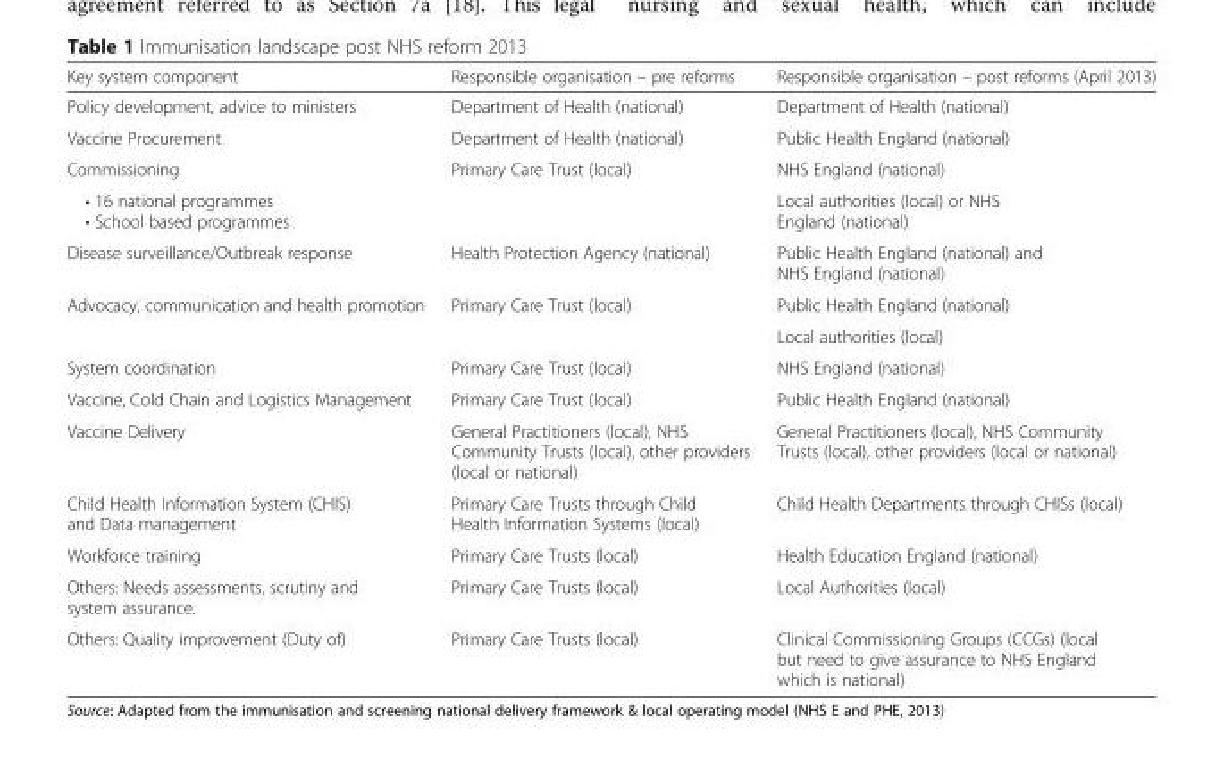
<table><thead><tr><td>Key system component</td><td>Responsible organisation – pre reforms</td><td>Responsible organisation – post reforms (April 2013)</td></tr></thead><tbody><tr><td>Policy development, advice to ministers</td><td>Department of Health (national)</td><td>Department of Health (national)</td></tr><tr><td>Vaccine Procurement</td><td>Department of Health (national)</td><td>Public Health England (national)</td></tr><tr><td>Commissioning</td><td rowspan="2">Primary Care Trust (local)</td><td>NHS England (national)</td></tr><tr><td>• 16 national programmes • School based programmes</td><td>Local authorities (local) or NHS England (national)</td></tr><tr><td>Disease surveillance/Outbreak response</td><td>Health Protection Agency (national)</td><td>Public Health England (national) and NHS England (national)</td></tr><tr><td rowspan="2">Advocacy, communication and health promotion</td><td rowspan="2">Primary Care Trust (local)</td><td>Public Health England (national)</td></tr><tr><td>Local authorities (local)</td></tr><tr><td>System coordination</td><td>Primary Care Trust (local)</td><td>NHS England (national)</td></tr><tr><td>Vaccine, Cold Chain and Logistics Management</td><td>Primary Care Trust (local)</td><td>Public Health England (national)</td></tr><tr><td>Vaccine Delivery</td><td>General Practitioners (local), NHS Community Trusts (local), other providers (local or national)</td><td>General Practitioners (local), NHS Community Trusts (local), other providers (local or national)</td></tr><tr><td>Child Health Information System (CHIS) and Data management</td><td>Primary Care Trusts through Child Health Information Systems (local)</td><td>Child Health Departments through CHISs (local)</td></tr><tr><td>Workforce training</td><td>Primary Care Trusts (local)</td><td>Health Education England (national)</td></tr><tr><td>Others: Needs assessments, scrutiny and system assurance.</td><td>Primary Care Trusts (local)</td><td>Local Authorities (local)</td></tr><tr><td>Others: Quality improvement (Duty of)</td><td>Primary Care Trusts (local)</td><td>Clinical Commissioning Groups (CCGs) (local but need to give assurance to NHS England which is national)</td></tr></tbody></table>